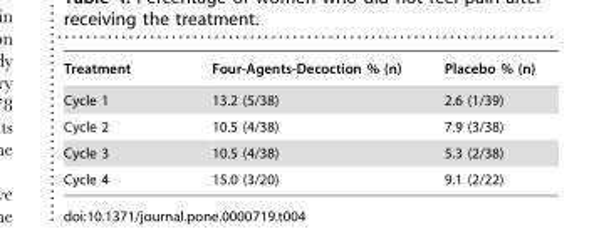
<table><thead><tr><td>Treatment</td><td>Four-Agents-Decoction % (n)</td><td>Placebo % (n)</td></tr></thead><tbody><tr><td>Cycle 1</td><td>13.2 (5/38)</td><td>2.6 (1/39)</td></tr><tr><td>Cycle 2</td><td>10.5 (4/38)</td><td>7.9 (3/38)</td></tr><tr><td>Cycle 3</td><td>10.5 (4/38)</td><td>5.3 (2/38)</td></tr><tr><td>Cycle 4</td><td>15.0 (3/20)</td><td>9.1 (2/22)</td></tr></tbody></table>